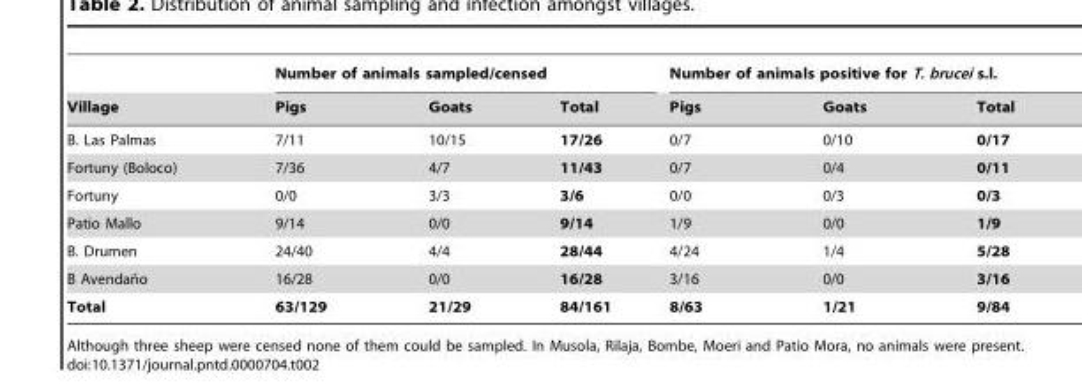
<table><thead><tr><td rowspan="2">Village</td><td colspan="3">Number of animals sampled/censed</td><td colspan="3">Number of animals positive for T. brucei s.l.</td></tr><tr><td>Pigs</td><td>Goats</td><td>Total</td><td>Pigs</td><td>Goats</td><td>Total</td></tr></thead><tbody><tr><td>B. Las Palmas</td><td>7/11</td><td>10/15</td><td>17/26</td><td>0/7</td><td>0/10</td><td>0/17</td></tr><tr><td>Fortuny (Boloco)</td><td>7/36</td><td>4/7</td><td>11/43</td><td>0/7</td><td>0/4</td><td>0/11</td></tr><tr><td>Fortuny</td><td>0/0</td><td>3/3</td><td>3/6</td><td>0/0</td><td>0/3</td><td>0/3</td></tr><tr><td>Patio Mallo</td><td>9/14</td><td>0/0</td><td>9/14</td><td>1/9</td><td>0/0</td><td>1/9</td></tr><tr><td>B. Drumen</td><td>24/40</td><td>4/4</td><td>28/44</td><td>4/24</td><td>1/4</td><td>5/28</td></tr><tr><td>B Avendan˜o</td><td>16/28</td><td>0/0</td><td>16/28</td><td>3/16</td><td>0/0</td><td>3/16</td></tr><tr><td>Total</td><td>63/129</td><td>21/29</td><td>84/161</td><td>8/63</td><td>1/21</td><td>9/84</td></tr></tbody></table>